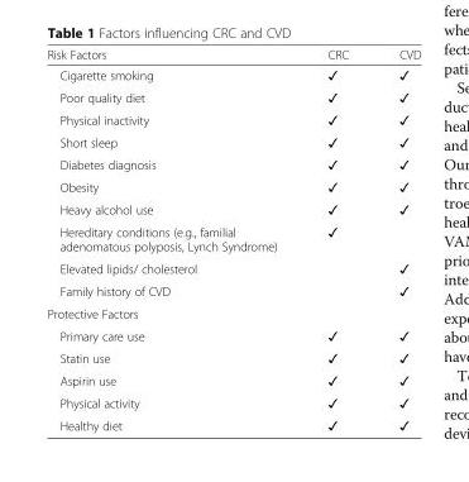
<table><thead><tr><td>Risk Factors</td><td>CRC</td><td>CVD</td></tr></thead><tbody><tr><td>Cigarette smoking</td><td>✓</td><td>✓</td></tr><tr><td>Poor quality diet</td><td>✓</td><td>✓</td></tr><tr><td>Physical inactivity</td><td>✓</td><td>✓</td></tr><tr><td>Short sleep</td><td>✓</td><td>✓</td></tr><tr><td>Diabetes diagnosis</td><td>✓</td><td>✓</td></tr><tr><td>Obesity</td><td>✓</td><td>✓</td></tr><tr><td>Heavy alcohol use</td><td>✓</td><td>✓</td></tr><tr><td>Hereditary conditions (e.g., familial adenomatous polyposis, Lynch Syndrome)</td><td>✓</td><td></td></tr><tr><td>Elevated lipids/ cholesterol</td><td></td><td>✓</td></tr><tr><td>Family history of CVD</td><td></td><td>✓</td></tr><tr><td colspan="3">Protective Factors</td></tr><tr><td>Primary care use</td><td>✓</td><td>✓</td></tr><tr><td>Statin use</td><td>✓</td><td>✓</td></tr><tr><td>Aspirin use</td><td>✓</td><td>✓</td></tr><tr><td>Physical activity</td><td>✓</td><td>✓</td></tr><tr><td>Healthy diet</td><td>✓</td><td>✓</td></tr></tbody></table>